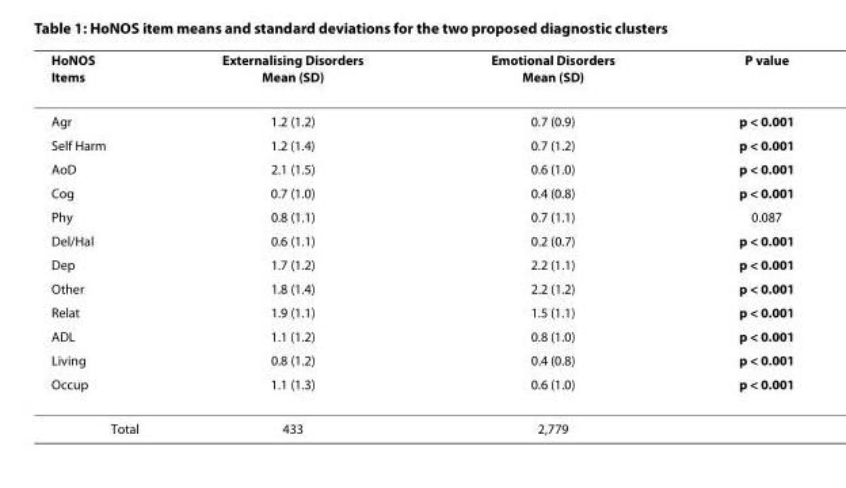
<table><thead><tr><td>HoNOS Items</td><td>Externalising Disorders Mean (SD)</td><td>Emotional Disorders Mean (SD)</td><td>P value</td></tr></thead><tbody><tr><td>Agr</td><td>1.2 (1.2)</td><td>0.7 (0.9)</td><td>p &lt; 0.001</td></tr><tr><td>Self Harm</td><td>1.2 (1.4)</td><td>0.7 (1.2)</td><td>p &lt; 0.001</td></tr><tr><td>AoD</td><td>2.1 (1.5)</td><td>0.6 (1.0)</td><td>p &lt; 0.001</td></tr><tr><td>Cog</td><td>0.7 (1.0)</td><td>0.4 (0.8)</td><td>p &lt; 0.001</td></tr><tr><td>Phy</td><td>0.8 (1.1)</td><td>0.7 (1.1)</td><td>0.087</td></tr><tr><td>Del/Hal</td><td>0.6 (1.1)</td><td>0.2 (0.7)</td><td>p &lt; 0.001</td></tr><tr><td>Dep</td><td>1.7 (1.2)</td><td>2.2 (1.1)</td><td>p &lt; 0.001</td></tr><tr><td>Other</td><td>1.8 (1.4)</td><td>2.2 (1.2)</td><td>p &lt; 0.001</td></tr><tr><td>Relat</td><td>1.9 (1.1)</td><td>1.5 (1.1)</td><td>p &lt; 0.001</td></tr><tr><td>ADL</td><td>1.1 (1.2)</td><td>0.8 (1.0)</td><td>p &lt; 0.001</td></tr><tr><td>Living</td><td>0.8 (1.2)</td><td>0.4 (0.8)</td><td>p &lt; 0.001</td></tr><tr><td>Occup</td><td>1.1 (1.3)</td><td>0.6 (1.0)</td><td>p &lt; 0.001</td></tr><tr><td>Total</td><td>433</td><td>2,779</td><td></td></tr></tbody></table>